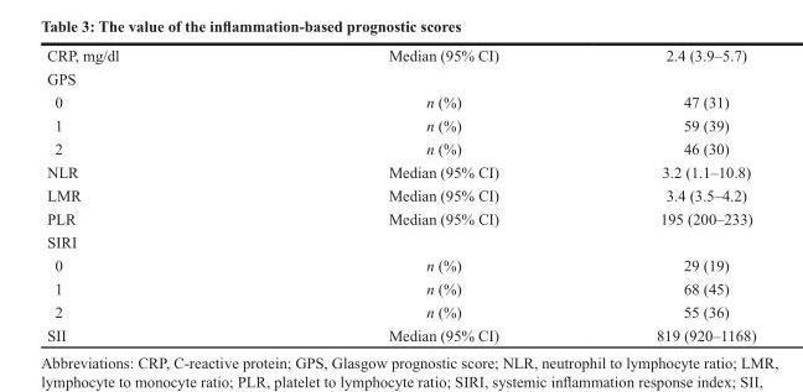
<table><thead><tr><td>CRP, mg/dl</td><td>Median (95% CI)</td><td>2.4 (3.9–5.7)</td></tr></thead><tbody><tr><td colspan="3">GPS</td></tr><tr><td>0</td><td>n (%)</td><td>47 (31)</td></tr><tr><td>1</td><td>n (%)</td><td>59 (39)</td></tr><tr><td>2</td><td>n (%)</td><td>46 (30)</td></tr><tr><td>NLR</td><td>Median (95% CI)</td><td>3.2 (1.1–10.8)</td></tr><tr><td>LMR</td><td>Median (95% CI)</td><td>3.4 (3.5–4.2)</td></tr><tr><td>PLR</td><td>Median (95% CI)</td><td>195 (200–233)</td></tr><tr><td colspan="3">SIRI</td></tr><tr><td>0</td><td>n (%)</td><td>29 (19)</td></tr><tr><td>1</td><td>n (%)</td><td>68 (45)</td></tr><tr><td>2</td><td>n (%)</td><td>55 (36)</td></tr><tr><td>SII</td><td>Median (95% CI)</td><td>819 (920–1168)</td></tr></tbody></table>